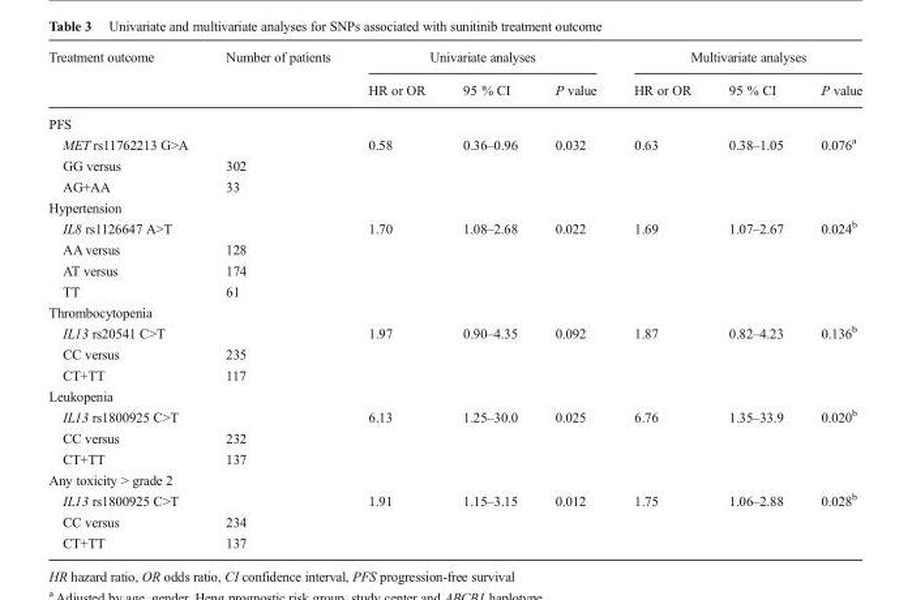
<table><thead><tr><td rowspan="2">Treatment outcome</td><td rowspan="2">Number of patients</td><td colspan="3">Univariate analyses</td><td colspan="3">Multivariate analyses</td></tr><tr><td>HR or OR</td><td>95 % CI</td><td>P value</td><td>HR or OR</td><td>95 % CI</td><td>P value</td></tr></thead><tbody><tr><td colspan="8">PFS</td></tr><tr><td>MET rs11762213 G&gt;A</td><td></td><td>0.58</td><td>0.36–0.96</td><td>0.032</td><td>0.63</td><td>0.38–1.05</td><td>0.076<sup>a</sup></td></tr><tr><td>GG versus</td><td>302</td><td></td><td></td><td></td><td></td><td></td><td></td></tr><tr><td>AG+AA</td><td>33</td><td></td><td></td><td></td><td></td><td></td><td></td></tr><tr><td colspan="8">Hypertension</td></tr><tr><td>IL8 rs1126647 A&gt;T</td><td></td><td>1.70</td><td>1.08–2.68</td><td>0.022</td><td>1.69</td><td>1.07–2.67</td><td>0.024<sup>b</sup></td></tr><tr><td>AA versus</td><td>128</td><td></td><td></td><td></td><td></td><td></td><td></td></tr><tr><td>AT versus</td><td>174</td><td></td><td></td><td></td><td></td><td></td><td></td></tr><tr><td>TT</td><td>61</td><td></td><td></td><td></td><td></td><td></td><td></td></tr><tr><td colspan="8">Thrombocytopenia</td></tr><tr><td>IL13 rs20541 C&gt;T</td><td></td><td>1.97</td><td>0.90–4.35</td><td>0.092</td><td>1.87</td><td>0.82–4.23</td><td>0.136<sup>b</sup></td></tr><tr><td>CC versus</td><td>235</td><td></td><td></td><td></td><td></td><td></td><td></td></tr><tr><td>CT+TT</td><td>117</td><td></td><td></td><td></td><td></td><td></td><td></td></tr><tr><td colspan="8">Leukopenia</td></tr><tr><td>IL13 rs1800925 C&gt;T</td><td></td><td>6.13</td><td>1.25–30.0</td><td>0.025</td><td>6.76</td><td>1.35–33.9</td><td>0.020<sup>b</sup></td></tr><tr><td>CC versus</td><td>232</td><td></td><td></td><td></td><td></td><td></td><td></td></tr><tr><td>CT+TT</td><td>137</td><td></td><td></td><td></td><td></td><td></td><td></td></tr><tr><td colspan="8">Any toxicity &gt; grade 2</td></tr><tr><td>IL13 rs1800925 C&gt;T</td><td></td><td>1.91</td><td>1.15–3.15</td><td>0.012</td><td>1.75</td><td>1.06–2.88</td><td>0.028<sup>b</sup></td></tr><tr><td>CC versus</td><td>234</td><td></td><td></td><td></td><td></td><td></td><td></td></tr><tr><td>CT+TT</td><td>137</td><td></td><td></td><td></td><td></td><td></td><td></td></tr></tbody></table>